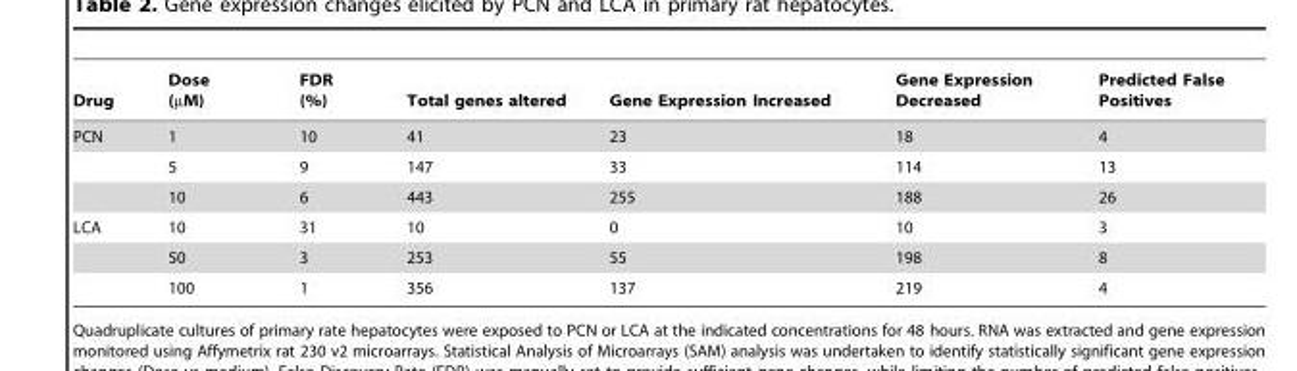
<table><thead><tr><td>Drug</td><td>Dose (µM)</td><td>FDR (%)</td><td>Total genes altered</td><td>Gene Expression Increased</td><td>Gene Expression Decreased</td><td>Predicted False Positives</td></tr></thead><tbody><tr><td rowspan="3">PCN</td><td>1</td><td>10</td><td>41</td><td>23</td><td>18</td><td>4</td></tr><tr><td>5</td><td>9</td><td>147</td><td>33</td><td>114</td><td>13</td></tr><tr><td>10</td><td>6</td><td>443</td><td>255</td><td>188</td><td>26</td></tr><tr><td rowspan="3">LCA</td><td>10</td><td>31</td><td>10</td><td>0</td><td>10</td><td>3</td></tr><tr><td>50</td><td>3</td><td>253</td><td>55</td><td>198</td><td>8</td></tr><tr><td>100</td><td>1</td><td>356</td><td>137</td><td>219</td><td>4</td></tr></tbody></table>